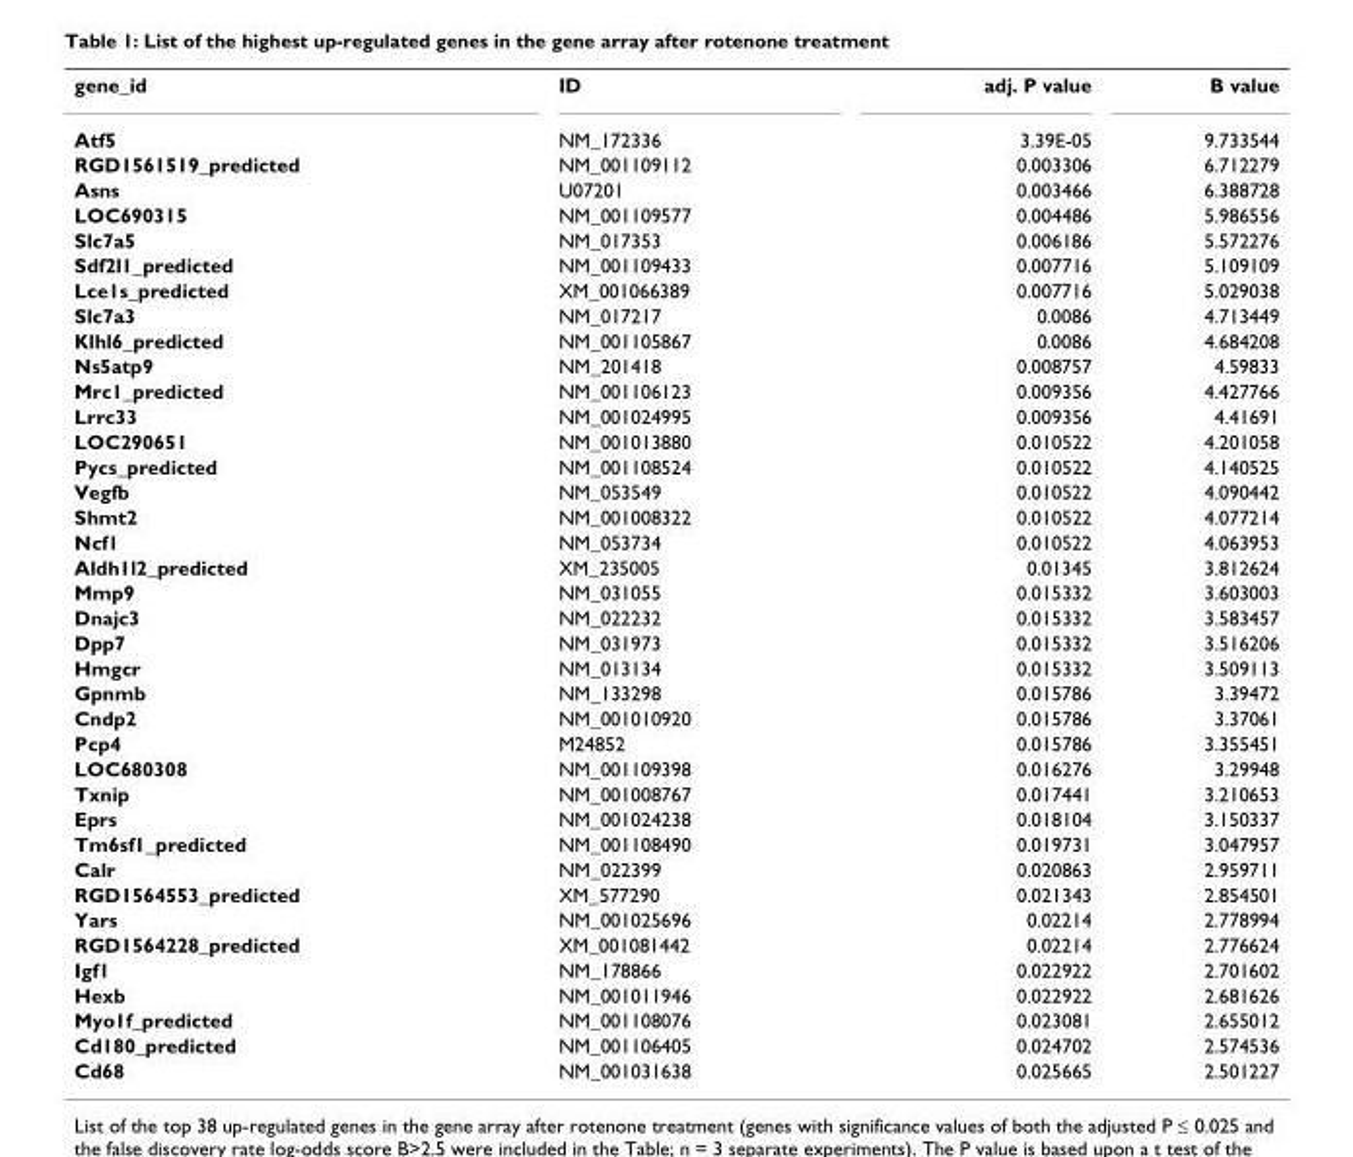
<table><tbody><tr><td>gene_id</td><td>ID</td><td>adj. P value</td><td>B value</td></tr><tr><td>Atf5</td><td>NM_172336</td><td>3.39E-05</td><td>9.733544</td></tr><tr><td>RGD1561519_predicted</td><td>NM_001109112</td><td>0.003306</td><td>6.712279</td></tr><tr><td>Asns</td><td>U07201</td><td>0.003466</td><td>6.388728</td></tr><tr><td>LOC690315</td><td>NM_001109577</td><td>0.004486</td><td>5.986556</td></tr><tr><td>Slc7a5</td><td>NM_017353</td><td>0.006186</td><td>5.572276</td></tr><tr><td>Sdf2l1_predicted</td><td>NM_001109433</td><td>0.007716</td><td>5.109109</td></tr><tr><td>Lce1s_predicted</td><td>XM_001066389</td><td>0.007716</td><td>5.029038</td></tr><tr><td>Slc7a3</td><td>NM_017217</td><td>0.0086</td><td>4.713449</td></tr><tr><td>Klhl6_predicted</td><td>NM_001105867</td><td>0.0086</td><td>4.684208</td></tr><tr><td>Ns5atp9</td><td>NM_201418</td><td>0.008757</td><td>4.59833</td></tr><tr><td>Mrc1_predicted</td><td>NM_001106123</td><td>0.009356</td><td>4.427766</td></tr><tr><td>Lrrc33</td><td>NM_001024995</td><td>0.009356</td><td>4.41691</td></tr><tr><td>LOC290651</td><td>NM_001013880</td><td>0.010522</td><td>4.201058</td></tr><tr><td>Pycs_predicted</td><td>NM_001108524</td><td>0.010522</td><td>4.140525</td></tr><tr><td>Vegfb</td><td>NM_053549</td><td>0.010522</td><td>4.090442</td></tr><tr><td>Shmt2</td><td>NM_001008322</td><td>0.010522</td><td>4.077214</td></tr><tr><td>Ncf1</td><td>NM_053734</td><td>0.010522</td><td>4.063953</td></tr><tr><td>Aldh1l2_predicted</td><td>XM_235005</td><td>0.01345</td><td>3.812624</td></tr><tr><td>Mmp9</td><td>NM_031055</td><td>0.015332</td><td>3.603003</td></tr><tr><td>Dnajc3</td><td>NM_022232</td><td>0.015332</td><td>3.583457</td></tr><tr><td>Dpp7</td><td>NM_031973</td><td>0.015332</td><td>3.516206</td></tr><tr><td>Hmgcr</td><td>NM_013134</td><td>0.015332</td><td>3.509113</td></tr><tr><td>Gpnmb</td><td>NM_133298</td><td>0.015786</td><td>3.39472</td></tr><tr><td>Cndp2</td><td>NM_001010920</td><td>0.015786</td><td>3.37061</td></tr><tr><td>Pcp4</td><td>M24852</td><td>0.015786</td><td>3.355451</td></tr><tr><td>LOC680308</td><td>NM_001109398</td><td>0.016276</td><td>3.29948</td></tr><tr><td>Txnip</td><td>NM_001008767</td><td>0.017441</td><td>3.210653</td></tr><tr><td>Eprs</td><td>NM_001024238</td><td>0.018104</td><td>3.150337</td></tr><tr><td>Tm6sf1_predicted</td><td>NM_001108490</td><td>0.019731</td><td>3.047957</td></tr><tr><td>Calr</td><td>NM_022399</td><td>0.020863</td><td>2.959711</td></tr><tr><td>RGD1564553_predicted</td><td>XM_577290</td><td>0.021343</td><td>2.854501</td></tr><tr><td>Yars</td><td>NM_001025696</td><td>0.02214</td><td>2.778994</td></tr><tr><td>RGD1564228_predicted</td><td>XM_001081442</td><td>0.02214</td><td>2.776624</td></tr><tr><td>Igf1</td><td>NM_178866</td><td>0.022922</td><td>2.701602</td></tr><tr><td>Hexb</td><td>NM_001011946</td><td>0.022922</td><td>2.681626</td></tr><tr><td>Myo1f_predicted</td><td>NM_001108076</td><td>0.023081</td><td>2.655012</td></tr><tr><td>Cd180_predicted</td><td>NM_001106405</td><td>0.024702</td><td>2.574536</td></tr><tr><td>Cd68</td><td>NM_001031638</td><td>0.025665</td><td>2.501227</td></tr></tbody></table>